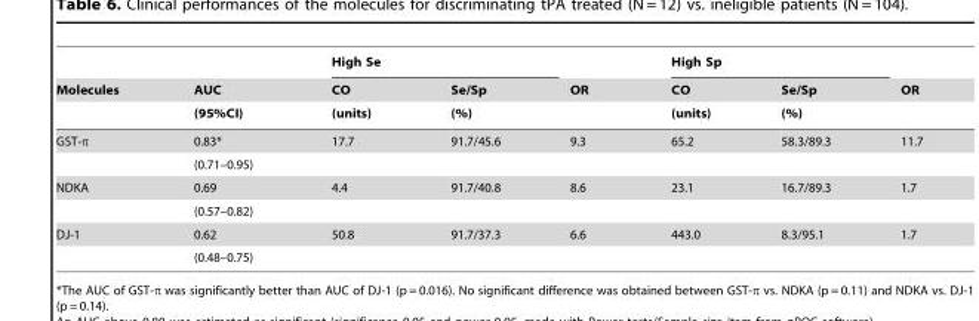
<table><thead><tr><td rowspan="3">Molecules</td><td rowspan="3">AUC (95%CI)</td><td colspan="2">High Se</td><td rowspan="3">OR</td><td colspan="2">High Sp</td><td rowspan="3">OR</td></tr><tr><td rowspan="2">CO (units)</td><td rowspan="2">Se/Sp (%)</td><td rowspan="2">CO (units)</td><td rowspan="2">Se/Sp (%)</td></tr><tr></tr></thead><tbody><tr><td rowspan="2">GST-π</td><td>0.83*</td><td>17.7</td><td>91.7/45.6</td><td>9.3</td><td>65.2</td><td>58.3/89.3</td><td>11.7</td></tr><tr><td>(0.71–0.95)</td><td></td><td></td><td></td><td></td><td></td><td></td></tr><tr><td rowspan="2">NDKA</td><td>0.69</td><td>4.4</td><td>91.7/40.8</td><td>8.6</td><td>23.1</td><td>16.7/89.3</td><td>1.7</td></tr><tr><td>(0.57–0.82)</td><td></td><td></td><td></td><td></td><td></td><td></td></tr><tr><td rowspan="2">DJ-1</td><td>0.62</td><td>50.8</td><td>91.7/37.3</td><td>6.6</td><td>443.0</td><td>8.3/95.1</td><td>1.7</td></tr><tr><td>(0.48–0.75)</td><td></td><td></td><td></td><td></td><td></td><td></td></tr></tbody></table>